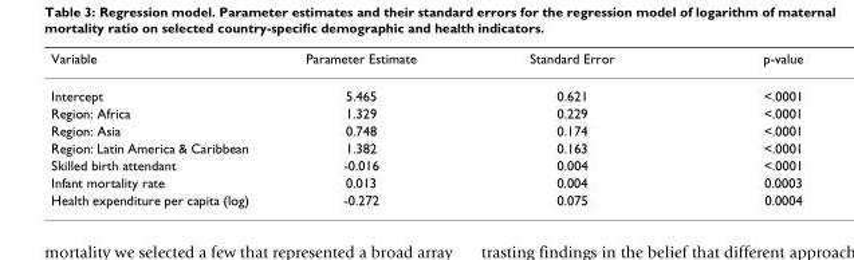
<table><thead><tr><td>Variable</td><td>Parameter Estimate</td><td>Standard Error</td><td>p-value</td></tr></thead><tbody><tr><td>Intercept</td><td>5.465</td><td>0.621</td><td>&lt;.0001</td></tr><tr><td>Region: Africa</td><td>1.329</td><td>0.229</td><td>&lt;.0001</td></tr><tr><td>Region: Asia</td><td>0.748</td><td>0.174</td><td>&lt;.0001</td></tr><tr><td>Region: Latin America &amp; Caribbean</td><td>1.382</td><td>0.163</td><td>&lt;.0001</td></tr><tr><td>Skilled birth attendant</td><td>-0.016</td><td>0.004</td><td>&lt;.0001</td></tr><tr><td>Infant mortality rate</td><td>0.013</td><td>0.004</td><td>0.0003</td></tr><tr><td>Health expenditure per capita (log)</td><td>-0.272</td><td>0.075</td><td>0.0004</td></tr></tbody></table>